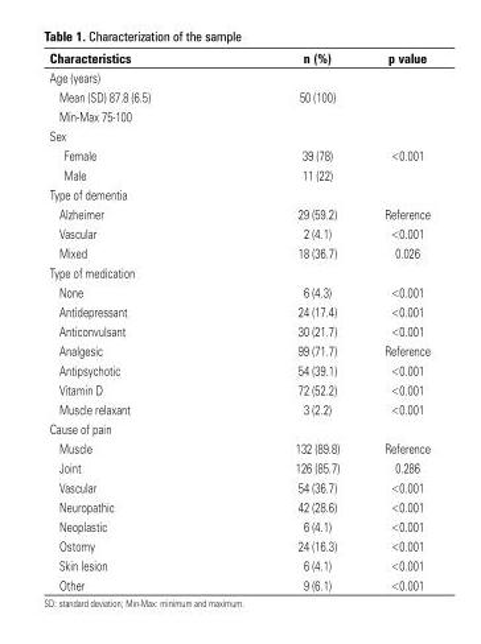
<table><thead><tr><td>Characteristics</td><td>n (%)</td><td>p value</td></tr></thead><tbody><tr><td colspan="3">Age (years)</td></tr><tr><td>Mean (SD) 87.8 (6.5)</td><td>50 (100)</td><td></td></tr><tr><td colspan="3">Min-Max 75-100</td></tr><tr><td colspan="3">Sex</td></tr><tr><td>Female</td><td>39 (78)</td><td rowspan="2">&lt;0.001</td></tr><tr><td>Male</td><td>11 (22)</td></tr><tr><td colspan="3">Type of dementia</td></tr><tr><td>Alzheimer</td><td>29 (59.2)</td><td>Reference</td></tr><tr><td>Vascular</td><td>2 (4.1)</td><td>&lt;0.001</td></tr><tr><td>Mixed</td><td>18 (36.7)</td><td>0.026</td></tr><tr><td colspan="3">Type of medication</td></tr><tr><td>None</td><td>6 (4.3)</td><td>&lt;0.001</td></tr><tr><td>Antidepressant</td><td>24 (17.4)</td><td>&lt;0.001</td></tr><tr><td>Anticonvulsant</td><td>30 (21.7)</td><td>&lt;0.001</td></tr><tr><td>Analgesic</td><td>99 (71.7)</td><td>Reference</td></tr><tr><td>Antipsychotic</td><td>54 (39.1)</td><td>&lt;0.001</td></tr><tr><td>Vitamin D</td><td>72 (52.2)</td><td>&lt;0.001</td></tr><tr><td>Muscle relaxant</td><td>3 (2.2)</td><td>&lt;0.001</td></tr><tr><td colspan="3">Cause of pain</td></tr><tr><td>Muscle</td><td>132 (89.8)</td><td>Reference</td></tr><tr><td>Joint</td><td>126 (85.7)</td><td>0.286</td></tr><tr><td>Vascular</td><td>54 (36.7)</td><td>&lt;0.001</td></tr><tr><td>Neuropathic</td><td>42 (28.6)</td><td>&lt;0.001</td></tr><tr><td>Neoplastic</td><td>6 (4.1)</td><td>&lt;0.001</td></tr><tr><td>Ostomy</td><td>24 (16.3)</td><td>&lt;0.001</td></tr><tr><td>Skin lesion</td><td>6 (4.1)</td><td>&lt;0.001</td></tr><tr><td>Other</td><td>9 (6.1)</td><td>&lt;0.001</td></tr></tbody></table>